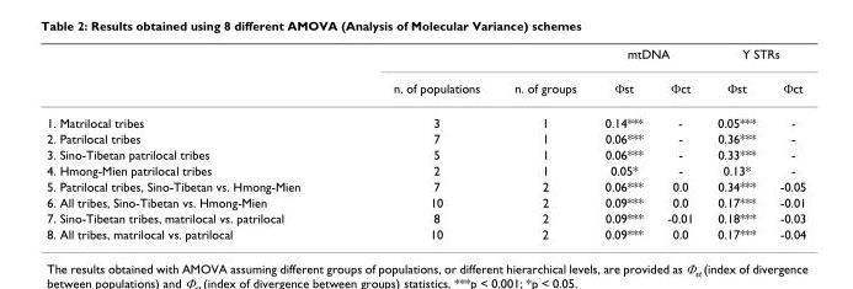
<table><thead><tr><td rowspan="2"></td><td rowspan="2">n. of populations</td><td rowspan="2">n. of groups</td><td colspan="2">mtDNA</td><td colspan="2">Y STRs</td></tr><tr><td>Φst</td><td>Φct</td><td>Φst</td><td>Φct</td></tr></thead><tbody><tr><td>1. Matrilocal tribes</td><td>3</td><td>1</td><td>0.14***</td><td>-</td><td>0.05***</td><td>-</td></tr><tr><td>2. Patrilocal tribes</td><td>7</td><td>1</td><td>0.06***</td><td>-</td><td>0.36***</td><td>-</td></tr><tr><td>3. Sino-Tibetan patrilocal tribes</td><td>5</td><td>1</td><td>0.06***</td><td>-</td><td>0.33***</td><td>-</td></tr><tr><td>4. Hmong-Mien patrilocal tribes</td><td>2</td><td>1</td><td>0.05*</td><td>-</td><td>0.13*</td><td>-</td></tr><tr><td>5. Patrilocal tribes, Sino-Tibetan vs. Hmong-Mien</td><td>7</td><td>2</td><td>0.06***</td><td>0.0</td><td>0.34***</td><td>-0.05</td></tr><tr><td>6. All tribes, Sino-Tibetan vs. Hmong-Mien</td><td>10</td><td>2</td><td>0.09***</td><td>0.0</td><td>0.17***</td><td>-0.01</td></tr><tr><td>7. Sino-Tibetan tribes, matrilocal vs. patrilocal</td><td>8</td><td>2</td><td>0.09***</td><td>-0.01</td><td>0.18***</td><td>-0.03</td></tr><tr><td>8. All tribes, matrilocal vs. patrilocal</td><td>10</td><td>2</td><td>0.09***</td><td>0.0</td><td>0.17***</td><td>-0.04</td></tr></tbody></table>